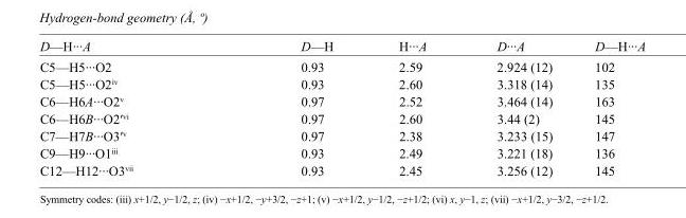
<table><tbody><tr><td>D—H···A</td><td>D—H</td><td>H···A</td><td>D···A</td><td>D—H···A</td></tr><tr><td>C5—H5···O2</td><td>0.93</td><td>2.59</td><td>2.924 (12)</td><td>102</td></tr><tr><td>C5—H5···O2<sup>iv</sup></td><td>0.93</td><td>2.60</td><td>3.318 (14)</td><td>135</td></tr><tr><td>C6—H6A···O2<sup>v</sup></td><td>0.97</td><td>2.52</td><td>3.464 (14)</td><td>163</td></tr><tr><td>C6—H6B···O2′<sup>vi</sup></td><td>0.97</td><td>2.60</td><td>3.44 (2)</td><td>145</td></tr><tr><td>C7—H7B···O3′<sup>v</sup></td><td>0.97</td><td>2.38</td><td>3.233 (15)</td><td>147</td></tr><tr><td>C9—H9···O1<sup>iii</sup></td><td>0.93</td><td>2.49</td><td>3.221 (18)</td><td>136</td></tr><tr><td>C12—H12···O3<sup>vii</sup></td><td>0.93</td><td>2.45</td><td>3.256 (12)</td><td>145</td></tr></tbody></table>